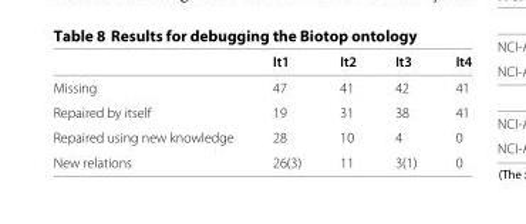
<table><thead><tr><td></td><td>It1</td><td>It2</td><td>It3</td><td>It4</td></tr></thead><tbody><tr><td>Missing</td><td>47</td><td>41</td><td>42</td><td>41</td></tr><tr><td>Repaired by itself</td><td>19</td><td>31</td><td>38</td><td>41</td></tr><tr><td>Repaired using new knowledge</td><td>28</td><td>10</td><td>4</td><td>0</td></tr><tr><td>New relations</td><td>26(3)</td><td>11</td><td>3(1)</td><td>0</td></tr></tbody></table>